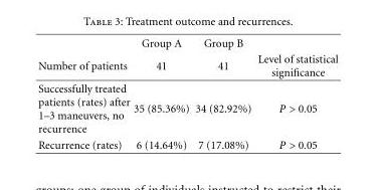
<table><thead><tr><td rowspan="2">Number of patients</td><td rowspan="2">Group A 41</td><td rowspan="2">Group B 41</td><td rowspan="2">Level of statistical significance</td></tr><tr></tr></thead><tbody><tr><td>Successfully treated patients (rates) after 1–3 maneuvers, no recurrence</td><td>35 (85.36%)</td><td>34 (82.92%)</td><td>P &gt; 0.05</td></tr><tr><td>Recurrence (rates)</td><td>6 (14.64%)</td><td>7 (17.08%)</td><td>P &gt; 0.05</td></tr></tbody></table>